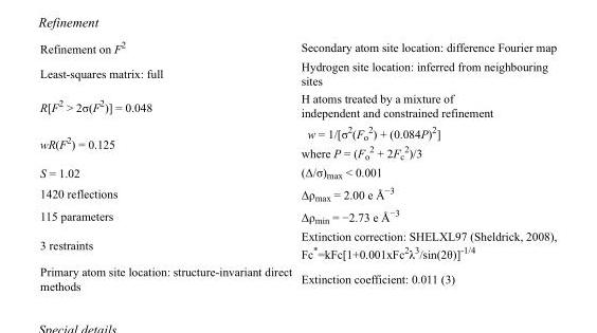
<table><tbody><tr><td>Refinement on F<sup>2</sup></td><td>Secondary atom site location: difference Fourier map</td></tr><tr><td>Least-squares matrix: full</td><td>Hydrogen site location: inferred from neighbouring sites</td></tr><tr><td>R[F<sup>2</sup> &gt; 2σ(F<sup>2</sup>)] = 0.048</td><td>H atoms treated by a mixture of independent and constrained refinement</td></tr><tr><td>wR(F<sup>2</sup>) = 0.125</td><td>w = 1/[σ<sup>2</sup>(F<sub>o</sub> <sup>2</sup>) + (0.084P)<sup>2</sup>] where P = (F<sub>o</sub> <sup>2</sup> + 2F<sub>c</sub> <sup>2</sup>)/3</td></tr><tr><td>S = 1.02</td><td>(Δ/σ)<sub>max</sub> &lt; 0.001</td></tr><tr><td>1420 reflections</td><td>Δρ<sub>max</sub> = 2.00 e Å<sup>−3</sup></td></tr><tr><td>115 parameters</td><td>Δρ<sub>min</sub> = −2.73 e Å<sup>−3</sup></td></tr><tr><td>3 restraints</td><td>Extinction correction: SHELXL97 (Sheldrick, 2008), Fc*=kFc[1+0.001xFc<sup>2</sup>λ<sup>3</sup>/sin(2θ)]<sup>-1/4</sup></td></tr><tr><td>Primary atom site location: structure-invariant direct methods</td><td>Extinction coefficient: 0.011 (3)</td></tr></tbody></table>